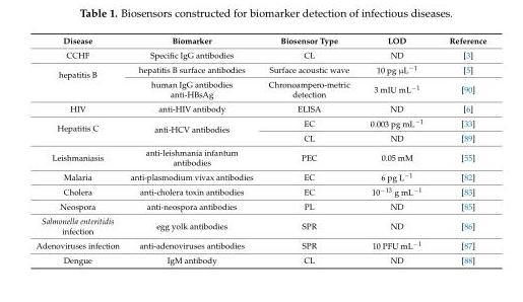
<table><thead><tr><td>Disease</td><td>Biomarker</td><td>Biosensor Type</td><td>LOD</td><td>Reference</td></tr></thead><tbody><tr><td>CCHF</td><td>Specific IgG antibodies</td><td>CL</td><td>ND</td><td>[3]</td></tr><tr><td rowspan="2">hepatitis B</td><td>hepatitis B surface antibodies</td><td>Surface acoustic wave</td><td>10 pg µL<sup>−1</sup></td><td>[5]</td></tr><tr><td>human IgG antibodies anti-HBsAg</td><td>Chronoampero-metric detection</td><td>3 mIU mL<sup>−1</sup></td><td>[90]</td></tr><tr><td>HIV</td><td>anti-HIV antibody</td><td>ELISA</td><td>ND</td><td>[6]</td></tr><tr><td rowspan="2">Hepatitis C</td><td rowspan="2">anti-HCV antibodies</td><td>EC</td><td>0.003 pg mL<sup>−1</sup></td><td>[33]</td></tr><tr><td>CL</td><td>ND</td><td>[89]</td></tr><tr><td>Leishmaniasis</td><td>anti-leishmania infantum antibodies</td><td>PEC</td><td>0.05 mM</td><td>[55]</td></tr><tr><td>Malaria</td><td>anti-plasmodium vivax antibodies</td><td>EC</td><td>6 pg L<sup>−1</sup></td><td>[82]</td></tr><tr><td>Cholera</td><td>anti-cholera toxin antibodies</td><td>EC</td><td>10<sup>−13</sup> g mL<sup>−1</sup></td><td>[83]</td></tr><tr><td>Neospora</td><td>anti-neospora antibodies</td><td>PL</td><td>ND</td><td>[85]</td></tr><tr><td>Salmonella enteritidis infection</td><td>egg yolk antibodies</td><td>SPR</td><td>ND</td><td>[86]</td></tr><tr><td>Adenoviruses infection</td><td>anti-adenoviruses antibodies</td><td>SPR</td><td>10 PFU mL<sup>−1</sup></td><td>[87]</td></tr><tr><td>Dengue</td><td>IgM antibody</td><td>CL</td><td>ND</td><td>[88]</td></tr></tbody></table>